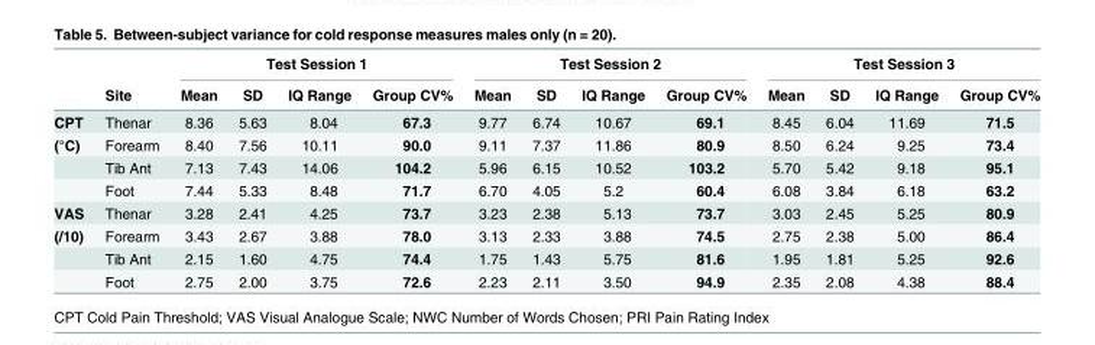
<table><thead><tr><td rowspan="2"></td><td rowspan="2">Site</td><td colspan="4">Test Session 1</td><td colspan="4">Test Session 2</td><td colspan="4">Test Session 3</td></tr><tr><td>Mean</td><td>SD</td><td>IQ Range</td><td>Group CV%</td><td>Mean</td><td>SD</td><td>IQ Range</td><td>Group CV%</td><td>Mean</td><td>SD</td><td>IQ Range</td><td>Group CV%</td></tr></thead><tbody><tr><td>CPT</td><td>Thenar</td><td>8.36</td><td>5.63</td><td>8.04</td><td>67.3</td><td>9.77</td><td>6.74</td><td>10.67</td><td>69.1</td><td>8.45</td><td>6.04</td><td>11.69</td><td>71.5</td></tr><tr><td rowspan="3">(°C)</td><td>Forearm</td><td>8.40</td><td>7.56</td><td>10.11</td><td>90.0</td><td>9.11</td><td>7.37</td><td>11.86</td><td>80.9</td><td>8.50</td><td>6.24</td><td>9.25</td><td>73.4</td></tr><tr><td>Tib Ant</td><td>7.13</td><td>7.43</td><td>14.06</td><td>104.2</td><td>5.96</td><td>6.15</td><td>10.52</td><td>103.2</td><td>5.70</td><td>5.42</td><td>9.18</td><td>95.1</td></tr><tr><td>Foot</td><td>7.44</td><td>5.33</td><td>8.48</td><td>71.7</td><td>6.70</td><td>4.05</td><td>5.2</td><td>60.4</td><td>6.08</td><td>3.84</td><td>6.18</td><td>63.2</td></tr><tr><td>VAS</td><td>Thenar</td><td>3.28</td><td>2.41</td><td>4.25</td><td>73.7</td><td>3.23</td><td>2.38</td><td>5.13</td><td>73.7</td><td>3.03</td><td>2.45</td><td>5.25</td><td>80.9</td></tr><tr><td rowspan="3">(/10)</td><td>Forearm</td><td>3.43</td><td>2.67</td><td>3.88</td><td>78.0</td><td>3.13</td><td>2.33</td><td>3.88</td><td>74.5</td><td>2.75</td><td>2.38</td><td>5.00</td><td>86.4</td></tr><tr><td>Tib Ant</td><td>2.15</td><td>1.60</td><td>4.75</td><td>74.4</td><td>1.75</td><td>1.43</td><td>5.75</td><td>81.6</td><td>1.95</td><td>1.81</td><td>5.25</td><td>92.6</td></tr><tr><td>Foot</td><td>2.75</td><td>2.00</td><td>3.75</td><td>72.6</td><td>2.23</td><td>2.11</td><td>3.50</td><td>94.9</td><td>2.35</td><td>2.08</td><td>4.38</td><td>88.4</td></tr></tbody></table>